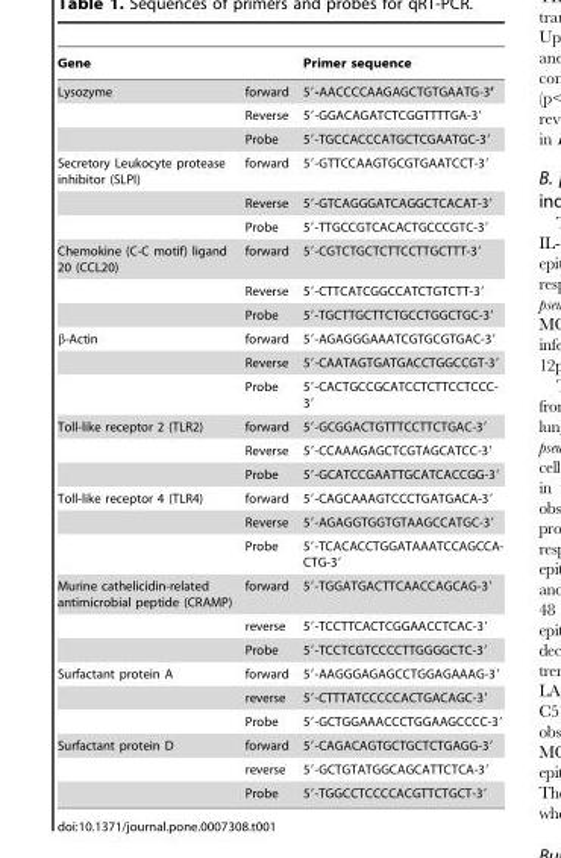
<table><thead><tr><td>Gene</td><td></td><td>Primer sequence</td></tr></thead><tbody><tr><td rowspan="3">Lysozyme</td><td>forward</td><td>5′-AACCCCAAGAGCTGTGAATG-3’</td></tr><tr><td>Reverse</td><td>5′-GGACAGATCTCGGTTTTGA-3′</td></tr><tr><td>Probe</td><td>5′-TGCCACCCATGCTCGAATGC-3′</td></tr><tr><td rowspan="3">Secretory Leukocyte protease inhibitor (SLPI)</td><td>forward</td><td>5′-GTTCCAAGTGCGTGAATCCT-3′</td></tr><tr><td>Reverse</td><td>5′-GTCAGGGATCAGGCTCACAT-3′</td></tr><tr><td>Probe</td><td>5′-TTGCCGTCACACTGCCCGTC-3′</td></tr><tr><td rowspan="3">Chemokine (C-C motif) ligand 20 (CCL20)</td><td>forward</td><td>5′-CGTCTGCTCTTCCTTGCTTT-3′</td></tr><tr><td>Reverse</td><td>5′-CTTCATCGGCCATCTGTCTT-3′</td></tr><tr><td>Probe</td><td>5′-TGCTTGCTTCTGCCTGGCTGC-3′</td></tr><tr><td rowspan="3">β-Actin</td><td>forward</td><td>5′-AGAGGGAAATCGTGCGTGAC-3′</td></tr><tr><td>Reverse</td><td>5′-CAATAGTGATGACCTGGCCGT-3′</td></tr><tr><td>Probe</td><td>5′-CACTGCCGCATCCTCTTCCTCCC- 3′</td></tr><tr><td rowspan="3">Toll-like receptor 2 (TLR2)</td><td>forward</td><td>5′-GCGGACTGTTTCCTTCTGAC-3′</td></tr><tr><td>Reverse</td><td>5′-CCAAAGAGCTCGTAGCATCC-3′</td></tr><tr><td>Probe</td><td>5′-GCATCCGAATTGCATCACCGG-3′</td></tr><tr><td rowspan="3">Toll-like receptor 4 (TLR4)</td><td>forward</td><td>5′-CAGCAAAGTCCCTGATGACA-3′</td></tr><tr><td>Reverse</td><td>5′-AGAGGTGGTGTAAGCCATGC-3′</td></tr><tr><td>Probe</td><td>59-TCACACCTGGATAAATCCAGCCA- CTG-39</td></tr><tr><td rowspan="3">Murine cathelicidin-related antimicrobial peptide (CRAMP)</td><td>forward</td><td>5′-TGGATGACTTCAACCAGCAG-3′</td></tr><tr><td>reverse</td><td>5′-TCCTTCACTCGGAACCTCAC-3′</td></tr><tr><td>Probe</td><td>5′-TCCTCGTCCCCTTGGGGCTC-3′</td></tr><tr><td rowspan="3">Surfactant protein A</td><td>forward</td><td>5′-AAGGGAGAGCCTGGAGAAAG-3′</td></tr><tr><td>reverse</td><td>5′-CTTTATCCCCCACTGACAGC-3′</td></tr><tr><td>Probe</td><td>5′-GCTGGAAACCCTGGAAGCCCC-3′</td></tr><tr><td rowspan="3">Surfactant protein D</td><td>forward</td><td>5′-CAGACAGTGCTGCTCTGAGG-3′</td></tr><tr><td>reverse</td><td>5′-GCTGTATGGCAGCATTCTCA-3′</td></tr><tr><td>Probe</td><td>5′-TGGCCTCCCCACGTTCTGCT-3′</td></tr></tbody></table>